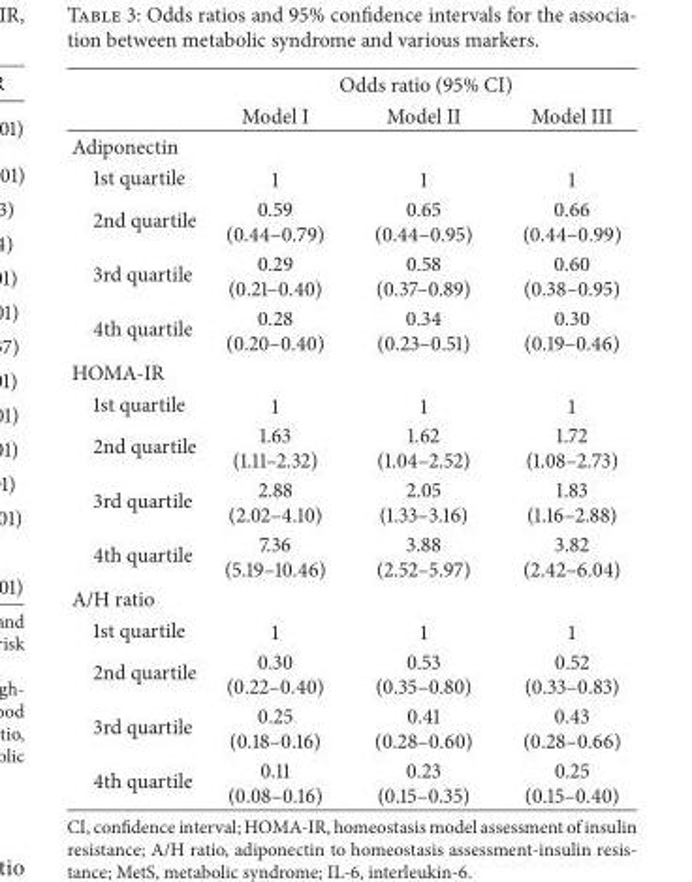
<table><thead><tr><td rowspan="2"></td><td colspan="3">Odds ratio (95% CI)</td></tr><tr><td>Model I</td><td>Model II</td><td>Model III</td></tr></thead><tbody><tr><td colspan="4">Adiponectin</td></tr><tr><td>1st quartile</td><td>1</td><td>1</td><td>1</td></tr><tr><td>2nd quartile</td><td>0.59 (0.44–0.79)</td><td>0.65 (0.44–0.95)</td><td>0.66 (0.44–0.99)</td></tr><tr><td>3rd quartile</td><td>0.29 (0.21–0.40)</td><td>0.58 (0.37–0.89)</td><td>0.60 (0.38–0.95)</td></tr><tr><td>4th quartile</td><td>0.28 (0.20–0.40)</td><td>0.34 (0.23–0.51)</td><td>0.30 (0.19–0.46)</td></tr><tr><td colspan="4">HOMA-IR</td></tr><tr><td>1st quartile</td><td>1</td><td>1</td><td>1</td></tr><tr><td>2nd quartile</td><td>1.63 (1.11–2.32)</td><td>1.62 (1.04–2.52)</td><td>1.72 (1.08–2.73)</td></tr><tr><td>3rd quartile</td><td>2.88 (2.02–4.10)</td><td>2.05 (1.33–3.16)</td><td>1.83 (1.16–2.88)</td></tr><tr><td>4th quartile</td><td>7.36 (5.19–10.46)</td><td>3.88 (2.52–5.97)</td><td>3.82 (2.42–6.04)</td></tr><tr><td colspan="4">A/H ratio</td></tr><tr><td>1st quartile</td><td>1</td><td>1</td><td>1</td></tr><tr><td>2nd quartile</td><td>0.30 (0.22–0.40)</td><td>0.53 (0.35–0.80)</td><td>0.52 (0.33–0.83)</td></tr><tr><td>3rd quartile</td><td>0.25 (0.18–0.16)</td><td>0.41 (0.28–0.60)</td><td>0.43 (0.28–0.66)</td></tr><tr><td>4th quartile</td><td>0.11 (0.08–0.16)</td><td>0.23 (0.15–0.35)</td><td>0.25 (0.15–0.40)</td></tr></tbody></table>